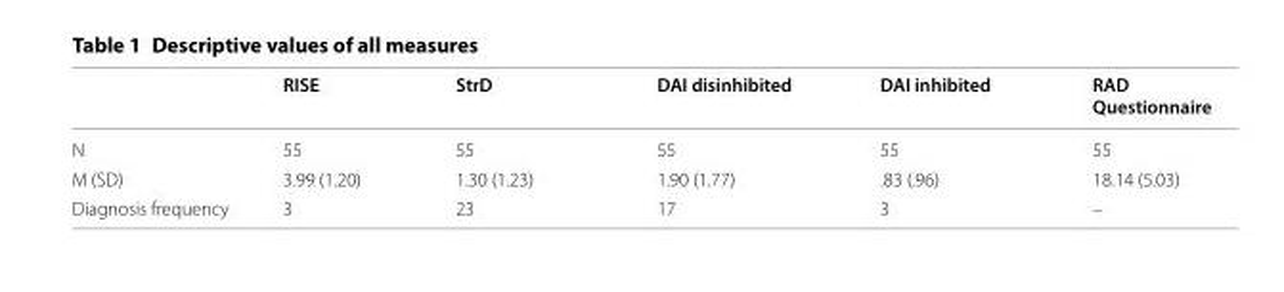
<table><thead><tr><td></td><td>RISE</td><td>StrD</td><td>DAI disinhibited</td><td>DAI inhibited</td><td>RAD Questionnaire</td></tr></thead><tbody><tr><td>N</td><td>55</td><td>55</td><td>55</td><td>55</td><td>55</td></tr><tr><td>M (SD)</td><td>3.99 (1.20)</td><td>1.30 (1.23)</td><td>1.90 (1.77)</td><td>.83 (.96)</td><td>18.14 (5.03)</td></tr><tr><td>Diagnosis frequency</td><td>3</td><td>23</td><td>17</td><td>3</td><td>–</td></tr></tbody></table>